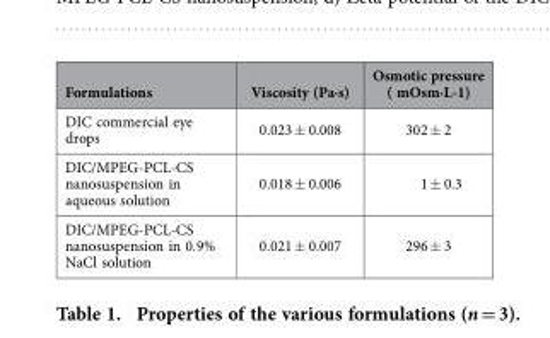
<table><thead><tr><td>Formulations</td><td>Viscosity (Pa·s)</td><td>Osmotic pressure ( mOsm·L-1)</td></tr></thead><tbody><tr><td>DIC commercial eye drops</td><td>0.023 ± 0.008</td><td>302 ± 2</td></tr><tr><td>DIC/MPEG-PCL-CS nanosuspension in aqueous solution</td><td>0.018 ± 0.006</td><td>1 ± 0.3</td></tr><tr><td>DIC/MPEG-PCL-CS nanosuspension in 0.9% NaCl solution</td><td>0.021 ± 0.007</td><td>296 ± 3</td></tr></tbody></table>